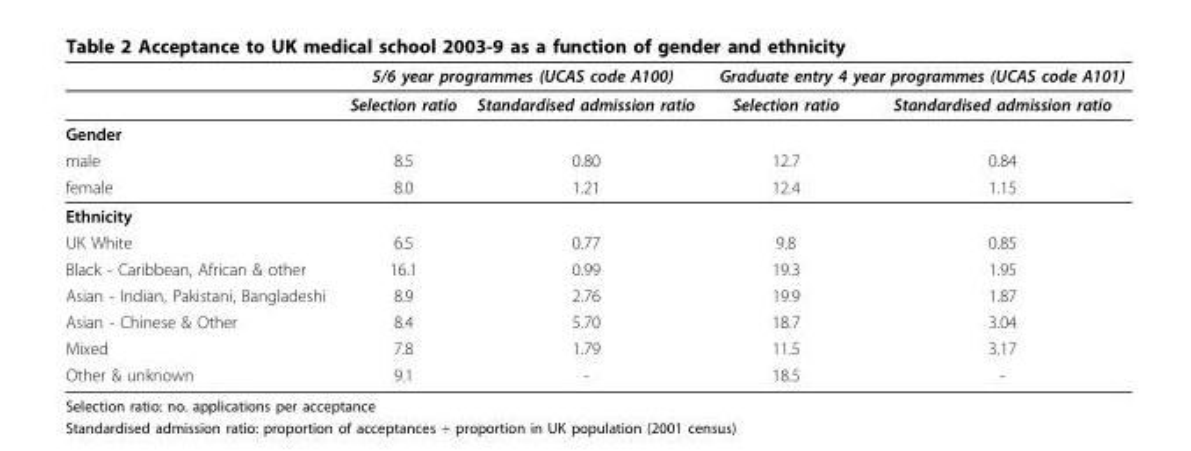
<table><thead><tr><td rowspan="2"></td><td colspan="2">5/6 year programmes (UCAS code A100)</td><td colspan="2">Graduate entry 4 year programmes (UCAS code A101)</td></tr><tr><td>Selection ratio</td><td>Standardised admission ratio</td><td>Selection ratio</td><td>Standardised admission ratio</td></tr></thead><tbody><tr><td colspan="5">Gender</td></tr><tr><td>male</td><td>8.5</td><td>0.80</td><td>12.7</td><td>0.84</td></tr><tr><td>female</td><td>8.0</td><td>1.21</td><td>12.4</td><td>1.15</td></tr><tr><td colspan="5">Ethnicity</td></tr><tr><td>UK White</td><td>6.5</td><td>0.77</td><td>9.8</td><td>0.85</td></tr><tr><td>Black - Caribbean, African &amp; other</td><td>16.1</td><td>0.99</td><td>19.3</td><td>1.95</td></tr><tr><td>Asian - Indian, Pakistani, Bangladeshi</td><td>8.9</td><td>2.76</td><td>19.9</td><td>1.87</td></tr><tr><td>Asian - Chinese &amp; Other</td><td>8.4</td><td>5.70</td><td>18.7</td><td>3.04</td></tr><tr><td>Mixed</td><td>7.8</td><td>1.79</td><td>11.5</td><td>3.17</td></tr><tr><td>Other &amp; unknown</td><td>9.1</td><td>-</td><td>18.5</td><td>-</td></tr></tbody></table>